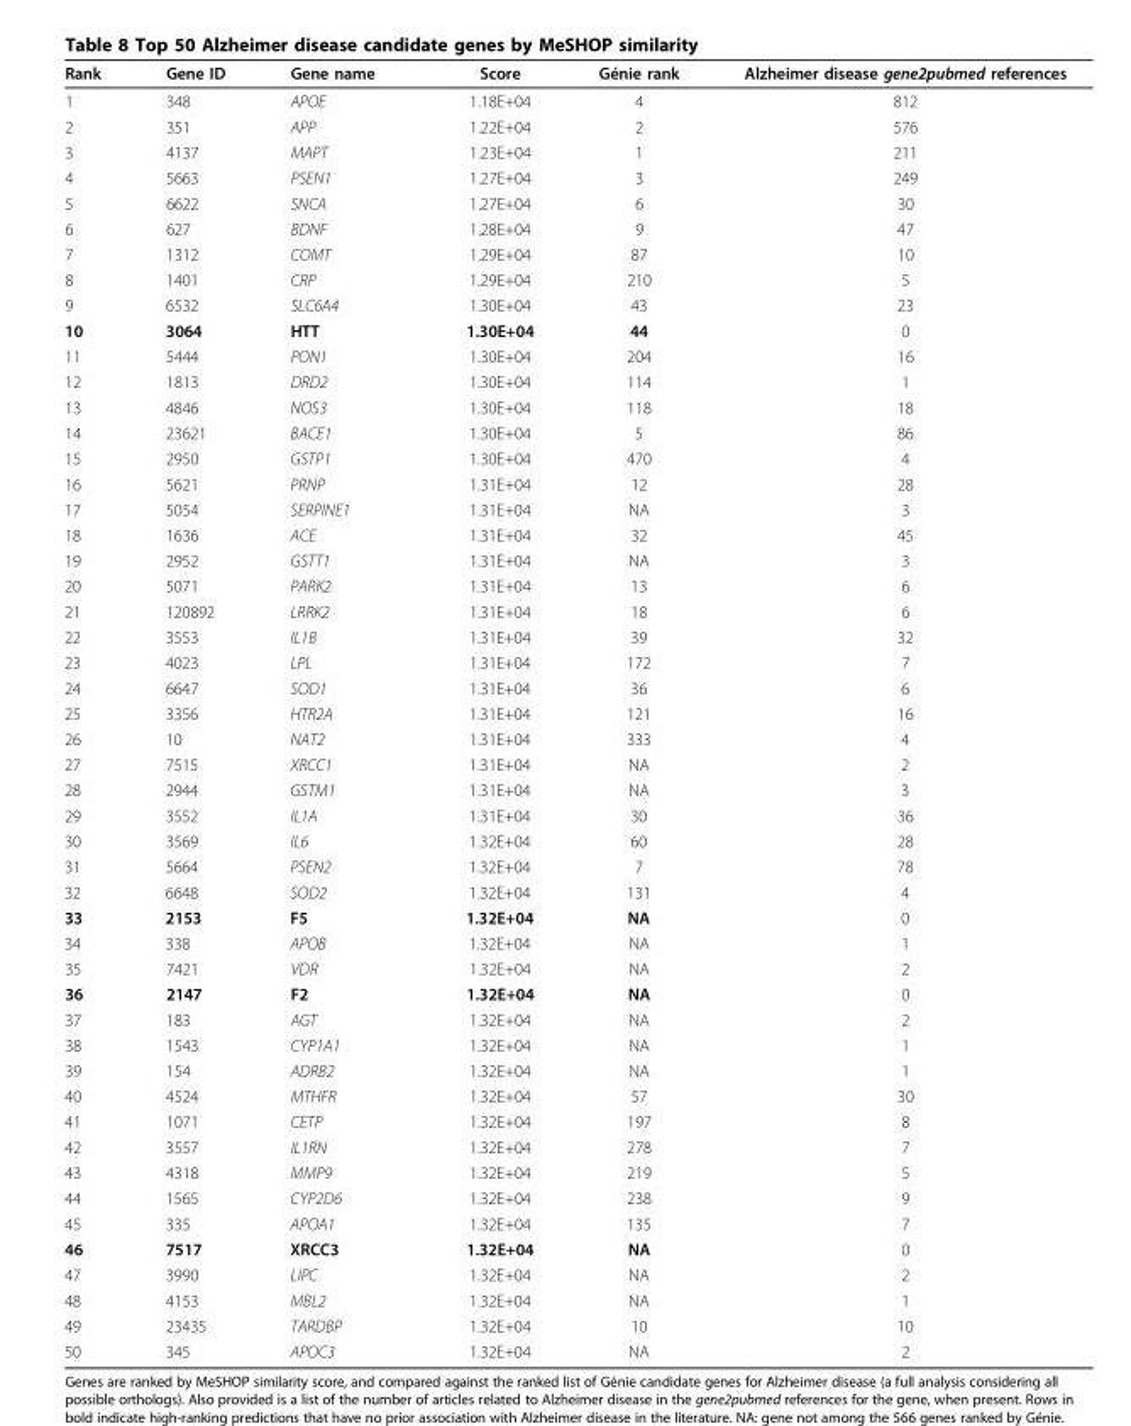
<table><thead><tr><td>Rank</td><td>Gene ID</td><td>Gene name</td><td>Score</td><td>Génie rank</td><td>Alzheimer disease gene2pubmed references</td></tr></thead><tbody><tr><td>1</td><td>348</td><td>APOE</td><td>1.18E+04</td><td>4</td><td>812</td></tr><tr><td>2</td><td>351</td><td>APP</td><td>1.22E+04</td><td>2</td><td>576</td></tr><tr><td>3</td><td>4137</td><td>MAPT</td><td>1.23E+04</td><td>1</td><td>211</td></tr><tr><td>4</td><td>5663</td><td>PSEN1</td><td>1.27E+04</td><td>3</td><td>249</td></tr><tr><td>5</td><td>6622</td><td>SNCA</td><td>1.27E+04</td><td>6</td><td>30</td></tr><tr><td>6</td><td>627</td><td>BDNF</td><td>1.28E+04</td><td>9</td><td>47</td></tr><tr><td>7</td><td>1312</td><td>COMT</td><td>1.29E+04</td><td>87</td><td>10</td></tr><tr><td>8</td><td>1401</td><td>CRP</td><td>1.29E+04</td><td>210</td><td>5</td></tr><tr><td>9</td><td>6532</td><td>SLC6A4</td><td>1.30E+04</td><td>43</td><td>23</td></tr><tr><td>10</td><td>3064</td><td>HTT</td><td>1.30E+04</td><td>44</td><td>0</td></tr><tr><td>11</td><td>5444</td><td>PON1</td><td>1.30E+04</td><td>204</td><td>16</td></tr><tr><td>12</td><td>1813</td><td>DRD2</td><td>1.30E+04</td><td>114</td><td>1</td></tr><tr><td>13</td><td>4846</td><td>NOS3</td><td>1.30E+04</td><td>118</td><td>18</td></tr><tr><td>14</td><td>23621</td><td>BACE1</td><td>1.30E+04</td><td>5</td><td>86</td></tr><tr><td>15</td><td>2950</td><td>GSTP1</td><td>1.30E+04</td><td>470</td><td>4</td></tr><tr><td>16</td><td>5621</td><td>PRNP</td><td>1.31E+04</td><td>12</td><td>28</td></tr><tr><td>17</td><td>5054</td><td>SERPINE1</td><td>1.31E+04</td><td>NA</td><td>3</td></tr><tr><td>18</td><td>1636</td><td>ACE</td><td>1.31E+04</td><td>32</td><td>45</td></tr><tr><td>19</td><td>2952</td><td>GSTT1</td><td>1.31E+04</td><td>NA</td><td>3</td></tr><tr><td>20</td><td>5071</td><td>PARK2</td><td>1.31E+04</td><td>13</td><td>6</td></tr><tr><td>21</td><td>120892</td><td>LRRK2</td><td>1.31E+04</td><td>18</td><td>6</td></tr><tr><td>22</td><td>3553</td><td>IL1B</td><td>1.31E+04</td><td>39</td><td>32</td></tr><tr><td>23</td><td>4023</td><td>LPL</td><td>1.31E+04</td><td>172</td><td>7</td></tr><tr><td>24</td><td>6647</td><td>SOD1</td><td>1.31E+04</td><td>36</td><td>6</td></tr><tr><td>25</td><td>3356</td><td>HTR2A</td><td>1.31E+04</td><td>121</td><td>16</td></tr><tr><td>26</td><td>10</td><td>NAT2</td><td>1.31E+04</td><td>333</td><td>4</td></tr><tr><td>27</td><td>7515</td><td>XRCC1</td><td>1.31E+04</td><td>NA</td><td>2</td></tr><tr><td>28</td><td>2944</td><td>GSTM1</td><td>1.31E+04</td><td>NA</td><td>3</td></tr><tr><td>29</td><td>3552</td><td>IL1A</td><td>1.31E+04</td><td>30</td><td>36</td></tr><tr><td>30</td><td>3569</td><td>IL6</td><td>1.32E+04</td><td>60</td><td>28</td></tr><tr><td>31</td><td>5664</td><td>PSEN2</td><td>1.32E+04</td><td>7</td><td>78</td></tr><tr><td>32</td><td>6648</td><td>SOD2</td><td>1.32E+04</td><td>131</td><td>4</td></tr><tr><td>33</td><td>2153</td><td>F5</td><td>1.32E+04</td><td>NA</td><td>0</td></tr><tr><td>34</td><td>338</td><td>APOB</td><td>1.32E+04</td><td>NA</td><td>1</td></tr><tr><td>35</td><td>7421</td><td>VDR</td><td>1.32E+04</td><td>NA</td><td>2</td></tr><tr><td>36</td><td>2147</td><td>F2</td><td>1.32E+04</td><td>NA</td><td>0</td></tr><tr><td>37</td><td>183</td><td>AGT</td><td>1.32E+04</td><td>NA</td><td>2</td></tr><tr><td>38</td><td>1543</td><td>CYP1A1</td><td>1.32E+04</td><td>NA</td><td>1</td></tr><tr><td>39</td><td>154</td><td>ADRB2</td><td>1.32E+04</td><td>NA</td><td>1</td></tr><tr><td>40</td><td>4524</td><td>MTHFR</td><td>1.32E+04</td><td>57</td><td>30</td></tr><tr><td>41</td><td>1071</td><td>CETP</td><td>1.32E+04</td><td>197</td><td>8</td></tr><tr><td>42</td><td>3557</td><td>IL1RN</td><td>1.32E+04</td><td>278</td><td>7</td></tr><tr><td>43</td><td>4318</td><td>MMP9</td><td>1.32E+04</td><td>219</td><td>5</td></tr><tr><td>44</td><td>1565</td><td>CYP2D6</td><td>1.32E+04</td><td>238</td><td>9</td></tr><tr><td>45</td><td>335</td><td>APOA1</td><td>1.32E+04</td><td>135</td><td>7</td></tr><tr><td>46</td><td>7517</td><td>XRCC3</td><td>1.32E+04</td><td>NA</td><td>0</td></tr><tr><td>47</td><td>3990</td><td>LIPC</td><td>1.32E+04</td><td>NA</td><td>2</td></tr><tr><td>48</td><td>4153</td><td>MBL2</td><td>1.32E+04</td><td>NA</td><td>1</td></tr><tr><td>49</td><td>23435</td><td>TARDBP</td><td>1.32E+04</td><td>10</td><td>10</td></tr><tr><td>50</td><td>345</td><td>APOC3</td><td>1.32E+04</td><td>NA</td><td>2</td></tr></tbody></table>